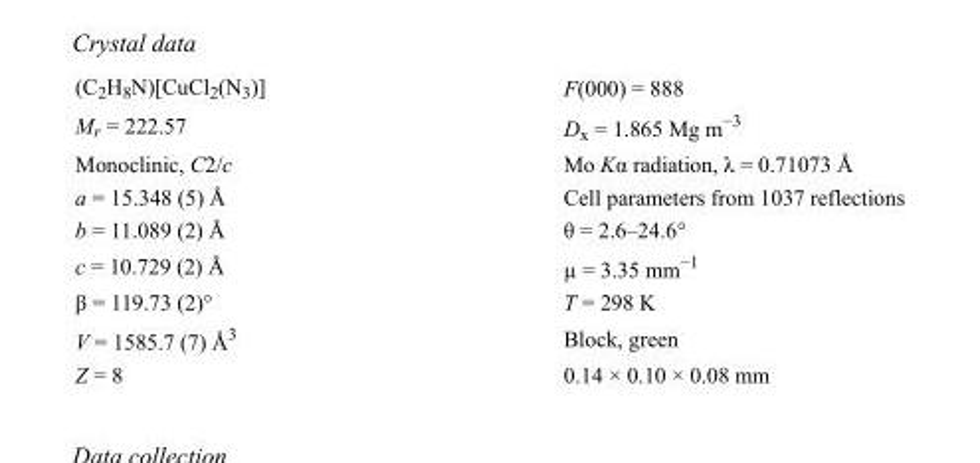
<table><tbody><tr><td>(C<sub>2</sub>H<sub>8</sub>N)[CuCl<sub>2</sub>(N<sub>3</sub>)]</td><td>F(000) = 888</td></tr><tr><td>M<sub>r</sub> = 222.57</td><td>D<sub>x</sub> = 1.865 Mg m<sup>−3</sup></td></tr><tr><td>Monoclinic, C2/c</td><td>Mo Kα radiation, λ = 0.71073 Å</td></tr><tr><td>a = 15.348 (5) Å</td><td>Cell parameters from 1037 reflections</td></tr><tr><td>b = 11.089 (2) Å</td><td>θ = 2.6–24.6°</td></tr><tr><td>c = 10.729 (2) Å</td><td>µ = 3.35 mm<sup>−1</sup></td></tr><tr><td>β = 119.73 (2)°</td><td>T = 298 K</td></tr><tr><td>V = 1585.7 (7) Å<sup>3</sup></td><td>Block, green</td></tr><tr><td>Z = 8</td><td>0.14 × 0.10 × 0.08 mm</td></tr></tbody></table>